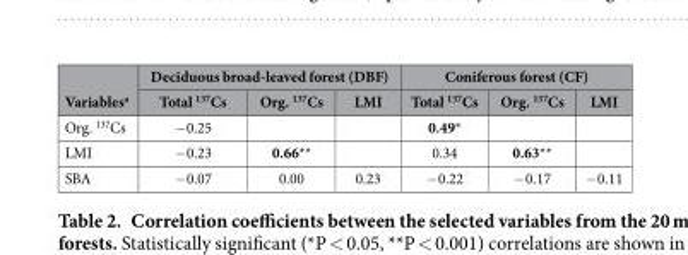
<table><thead><tr><td rowspan="2">Variables<sup>a</sup></td><td colspan="3">Deciduous broad-leaved forest (DBF)</td><td colspan="3">Coniferous forest (CF)</td></tr><tr><td>Total <sup>137</sup>Cs</td><td>Org. <sup>137</sup>Cs</td><td>LMI</td><td>Total <sup>137</sup>Cs</td><td>Org. <sup>137</sup>Cs</td><td>LMI</td></tr></thead><tbody><tr><td>Org. <sup>137</sup>Cs</td><td>− 0.25</td><td></td><td></td><td>0.49*</td><td></td><td></td></tr><tr><td>LMI</td><td>− 0.23</td><td>0.66**</td><td></td><td>0.34</td><td>0.63**</td><td></td></tr><tr><td>SBA</td><td>− 0.07</td><td>0.00</td><td>0.23</td><td>− 0.22</td><td>− 0.17</td><td>− 0.11</td></tr></tbody></table>